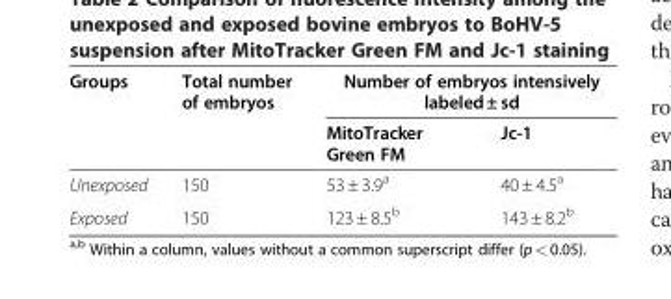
<table><thead><tr><td rowspan="2">Groups</td><td rowspan="2">Total number of embryos</td><td colspan="2">Number of embryos intensively labeled ± sd</td></tr><tr><td>MitoTracker Green FM</td><td>Jc-1</td></tr></thead><tbody><tr><td>Unexposed</td><td>150</td><td>53 ± 3.9<sup>a</sup></td><td>40 ± 4.5<sup>a</sup></td></tr><tr><td>Exposed</td><td>150</td><td>123 ± 8.5<sup>b</sup></td><td>143 ± 8.2<sup>b</sup></td></tr></tbody></table>